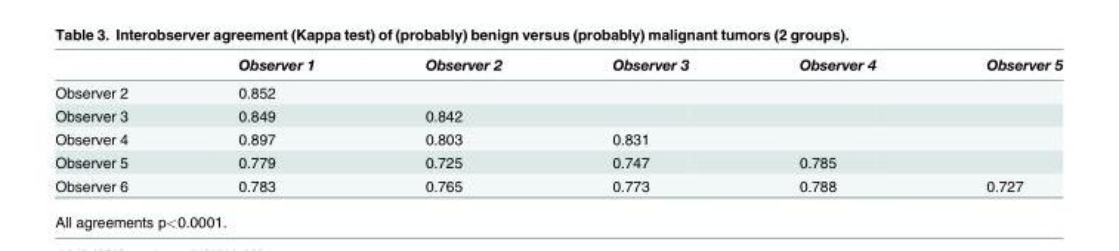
<table><thead><tr><td></td><td>Observer 1</td><td>Observer 2</td><td>Observer 3</td><td>Observer 4</td><td>Observer 5</td></tr></thead><tbody><tr><td>Observer 2</td><td>0.852</td><td></td><td></td><td></td><td></td></tr><tr><td>Observer 3</td><td>0.849</td><td>0.842</td><td></td><td></td><td></td></tr><tr><td>Observer 4</td><td>0.897</td><td>0.803</td><td>0.831</td><td></td><td></td></tr><tr><td>Observer 5</td><td>0.779</td><td>0.725</td><td>0.747</td><td>0.785</td><td></td></tr><tr><td>Observer 6</td><td>0.783</td><td>0.765</td><td>0.773</td><td>0.788</td><td>0.727</td></tr></tbody></table>